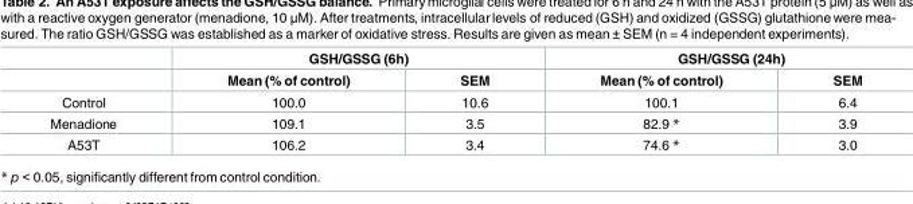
<table><thead><tr><td rowspan="2"></td><td colspan="2">GSH/GSSG (6h)</td><td colspan="2">GSH/GSSG (24h)</td></tr><tr><td>Mean (% of control)</td><td>SEM</td><td>Mean (% of control)</td><td>SEM</td></tr></thead><tbody><tr><td>Control</td><td>100.0</td><td>10.6</td><td>100.1</td><td>6.4</td></tr><tr><td>Menadione</td><td>109.1</td><td>3.5</td><td>82.9 *</td><td>3.9</td></tr><tr><td>A53T</td><td>106.2</td><td>3.4</td><td>74.6 *</td><td>3.0</td></tr></tbody></table>